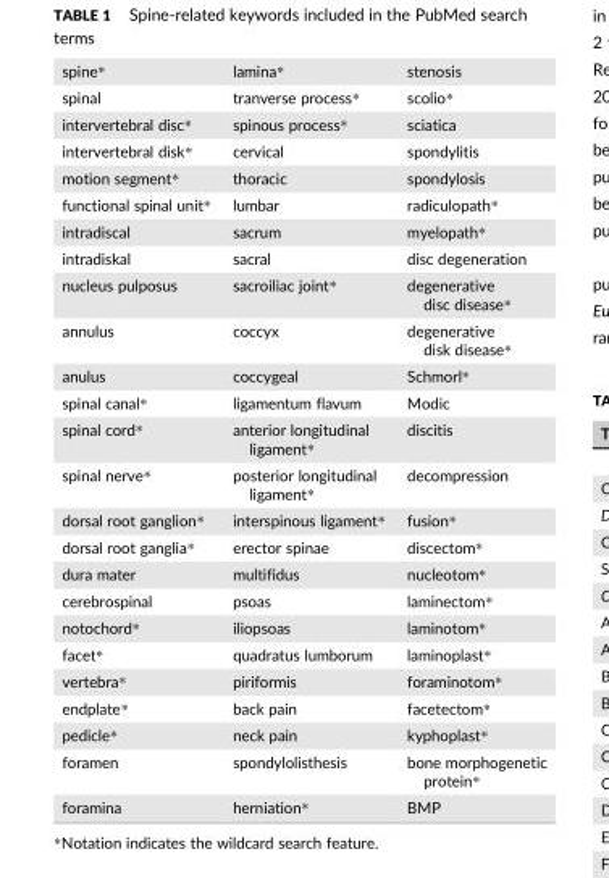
<table><tbody><tr><td>spine*</td><td>lamina*</td><td>stenosis</td></tr><tr><td>spinal</td><td>tranverse process*</td><td>scolio*</td></tr><tr><td>intervertebral disc*</td><td>spinous process*</td><td>sciatica</td></tr><tr><td>intervertebral disk*</td><td>cervical</td><td>spondylitis</td></tr><tr><td>motion segment*</td><td>thoracic</td><td>spondylosis</td></tr><tr><td>functional spinal unit*</td><td>lumbar</td><td>radiculopath*</td></tr><tr><td>intradiscal</td><td>sacrum</td><td>myelopath*</td></tr><tr><td>intradiskal</td><td>sacral</td><td>disc degeneration</td></tr><tr><td>nucleus pulposus</td><td>sacroiliac joint*</td><td>degenerative disc disease*</td></tr><tr><td>annulus</td><td>coccyx</td><td>degenerative disk disease*</td></tr><tr><td>anulus</td><td>coccygeal</td><td>Schmorl*</td></tr><tr><td>spinal canal*</td><td>ligamentum flavum</td><td>Modic</td></tr><tr><td>spinal cord*</td><td>anterior longitudinal ligament*</td><td>discitis</td></tr><tr><td>spinal nerve*</td><td>posterior longitudinal ligament*</td><td>decompression</td></tr><tr><td>dorsal root ganglion*</td><td>interspinous ligament*</td><td>fusion*</td></tr><tr><td>dorsal root ganglia*</td><td>erector spinae</td><td>discectom*</td></tr><tr><td>dura mater</td><td>multifidus</td><td>nucleotom*</td></tr><tr><td>cerebrospinal</td><td>psoas</td><td>laminectom*</td></tr><tr><td>notochord*</td><td>iliopsoas</td><td>laminotom*</td></tr><tr><td>facet*</td><td>quadratus lumborum</td><td>laminoplast*</td></tr><tr><td>vertebra*</td><td>piriformis</td><td>foraminotom*</td></tr><tr><td>endplate*</td><td>back pain</td><td>facetectom*</td></tr><tr><td>pedicle*</td><td>neck pain</td><td>kyphoplast*</td></tr><tr><td>foramen</td><td>spondylolisthesis</td><td>bone morphogenetic protein*</td></tr><tr><td>foramina</td><td>herniation*</td><td>BMP</td></tr></tbody></table>